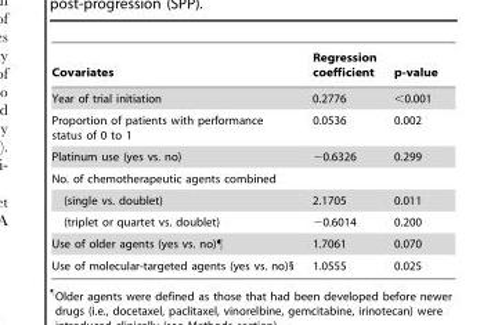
<table><thead><tr><td>Covariates</td><td>Regression coefficient</td><td>p-value</td></tr></thead><tbody><tr><td>Year of trial initiation</td><td>0.2776</td><td>&lt;0.001</td></tr><tr><td>Proportion of patients with performance status of 0 to 1</td><td>0.0536</td><td>0.002</td></tr><tr><td>Platinum use (yes vs. no)</td><td>−0.6326</td><td>0.299</td></tr><tr><td colspan="3">No. of chemotherapeutic agents combined</td></tr><tr><td>(single vs. doublet)</td><td>2.1705</td><td>0.011</td></tr><tr><td>(triplet or quartet vs. doublet)</td><td>−0.6014</td><td>0.200</td></tr><tr><td>Use of older agents (yes vs. no)¶</td><td>1.7061</td><td>0.070</td></tr><tr><td>Use of molecular-targeted agents (yes vs. no)§</td><td>1.0555</td><td>0.025</td></tr></tbody></table>